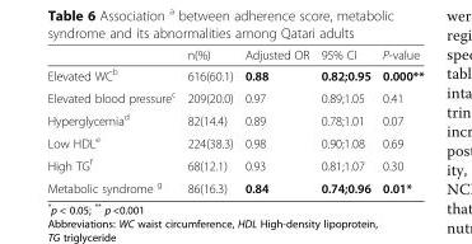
<table><thead><tr><td></td><td>n(%)</td><td>Adjusted OR</td><td>95% CI</td><td>P-value</td></tr></thead><tbody><tr><td>Elevated WC<sup>b</sup></td><td>616(60.1)</td><td>0.88</td><td>0.82;0.95</td><td>0.000**</td></tr><tr><td>Elevated blood pressure<sup>c</sup></td><td>209(20.0)</td><td>0.97</td><td>0.89;1.05</td><td>0.41</td></tr><tr><td>Hyperglycemia<sup>d</sup></td><td>82(14.4)</td><td>0.89</td><td>0.78;1.01</td><td>0.07</td></tr><tr><td>Low HDL<sup>e</sup></td><td>224(38.3)</td><td>0.98</td><td>0.90;1.08</td><td>0.69</td></tr><tr><td>High TG<sup>f</sup></td><td>68(12.1)</td><td>0.93</td><td>0.81;1.07</td><td>0.30</td></tr><tr><td>Metabolic syndrome <sup>g</sup></td><td>86(16.3)</td><td>0.84</td><td>0.74;0.96</td><td>0.01*</td></tr></tbody></table>